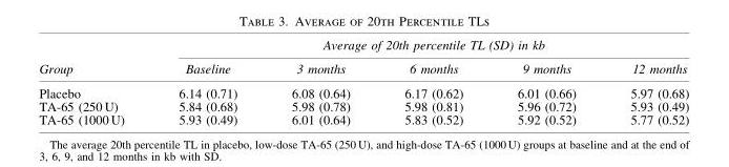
<table><thead><tr><td rowspan="2">Group</td><td colspan="5">Average of 20th percentile TL (SD) in kb</td></tr><tr><td>Baseline</td><td>3 months</td><td>6 months</td><td>9 months</td><td>12 months</td></tr></thead><tbody><tr><td>Placebo</td><td>6.14 (0.71)</td><td>6.08 (0.64)</td><td>6.17 (0.62)</td><td>6.01 (0.66)</td><td>5.97 (0.68)</td></tr><tr><td>TA-65 (250 U)</td><td>5.84 (0.68)</td><td>5.98 (0.78)</td><td>5.98 (0.81)</td><td>5.96 (0.72)</td><td>5.93 (0.49)</td></tr><tr><td>TA-65 (1000 U)</td><td>5.93 (0.49)</td><td>6.01 (0.64)</td><td>5.83 (0.52)</td><td>5.92 (0.52)</td><td>5.77 (0.52)</td></tr></tbody></table>